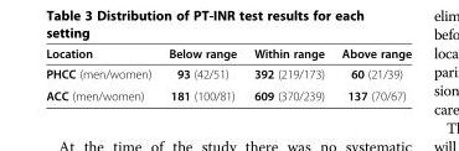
<table><thead><tr><td>Location</td><td>Below range</td><td>Within range</td><td>Above range</td></tr></thead><tbody><tr><td>PHCC (men/women)</td><td>93 (42/51)</td><td>392 (219/173)</td><td>60 (21/39)</td></tr><tr><td>ACC (men/women)</td><td>181 (100/81)</td><td>609 (370/239)</td><td>137 (70/67)</td></tr></tbody></table>